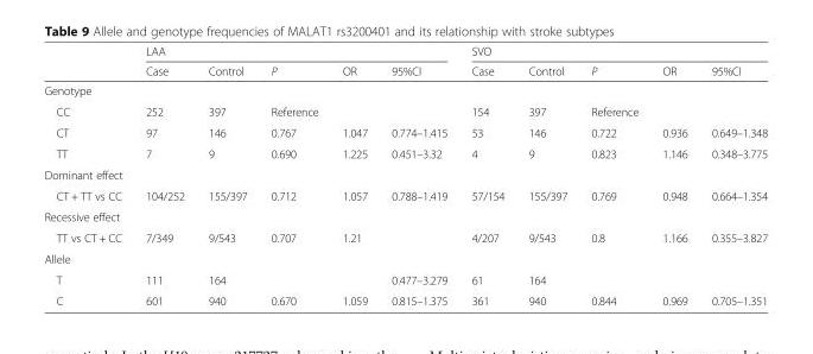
<table><thead><tr><td rowspan="2"></td><td colspan="5">LAA</td><td colspan="5">SVO</td></tr><tr><td>Case</td><td>Control</td><td>P</td><td>OR</td><td>95%CI</td><td>Case</td><td>Control</td><td>P</td><td>OR</td><td>95%CI</td></tr></thead><tbody><tr><td colspan="11">Genotype</td></tr><tr><td>CC</td><td>252</td><td>397</td><td>Reference</td><td></td><td></td><td>154</td><td>397</td><td>Reference</td><td></td><td></td></tr><tr><td>CT</td><td>97</td><td>146</td><td>0.767</td><td>1.047</td><td>0.774–1.415</td><td>53</td><td>146</td><td>0.722</td><td>0.936</td><td>0.649–1.348</td></tr><tr><td>TT</td><td>7</td><td>9</td><td>0.690</td><td>1.225</td><td>0.451–3.32</td><td>4</td><td>9</td><td>0.823</td><td>1.146</td><td>0.348–3.775</td></tr><tr><td colspan="11">Dominant effect</td></tr><tr><td>CT + TT vs CC</td><td>104/252</td><td>155/397</td><td>0.712</td><td>1.057</td><td>0.788–1.419</td><td>57/154</td><td>155/397</td><td>0.769</td><td>0.948</td><td>0.664–1.354</td></tr><tr><td colspan="11">Recessive effect</td></tr><tr><td>TT vs CT + CC</td><td>7/349</td><td>9/543</td><td>0.707</td><td>1.21</td><td></td><td>4/207</td><td>9/543</td><td>0.8</td><td>1.166</td><td>0.355–3.827</td></tr><tr><td colspan="11">Allele</td></tr><tr><td>T</td><td>111</td><td>164</td><td></td><td></td><td>0.477–3.279</td><td>61</td><td>164</td><td></td><td></td><td></td></tr><tr><td>C</td><td>601</td><td>940</td><td>0.670</td><td>1.059</td><td>0.815–1.375</td><td>361</td><td>940</td><td>0.844</td><td>0.969</td><td>0.705–1.351</td></tr></tbody></table>